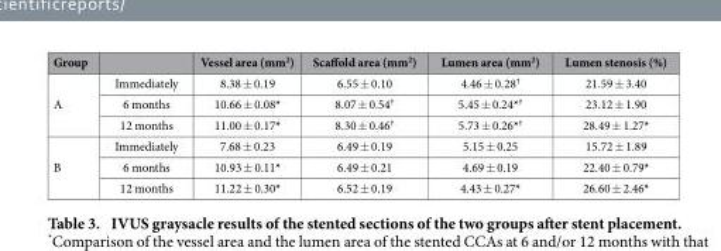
<table><thead><tr><td>Group</td><td></td><td>Vessel area (mm<sup>2</sup>)</td><td>Scaffold area (mm<sup>2</sup>)</td><td>Lumen area (mm<sup>2</sup>)</td><td>Lumen stenosis (%)</td></tr></thead><tbody><tr><td rowspan="3">A</td><td>Immediately</td><td>8.38 ± 0.19</td><td>6.55 ± 0.10</td><td>4.46 ± 0.28†</td><td>21.59 ± 3.40</td></tr><tr><td>6 months</td><td>10.66 ± 0.08*</td><td>8.07 ± 0.54†</td><td>5.45 ± 0.24*<sup>†</sup></td><td>23.12 ± 1.90</td></tr><tr><td>12 months</td><td>11.00 ± 0.17*</td><td>8.30 ± 0.46†</td><td>5.73 ± 0.26*<sup>†</sup></td><td>28.49 ± 1.27*</td></tr><tr><td rowspan="3">B</td><td>Immediately</td><td>7.68 ± 0.23</td><td>6.49 ± 0.19</td><td>5.15 ± 0.25</td><td>15.72 ± 1.89</td></tr><tr><td>6 months</td><td>10.93 ± 0.11*</td><td>6.49 ± 0.21</td><td>4.69 ± 0.19</td><td>22.40 ± 0.79*</td></tr><tr><td>12 months</td><td>11.22 ± 0.30*</td><td>6.52 ± 0.19</td><td>4.43 ± 0.27*</td><td>26.60 ± 2.46*</td></tr></tbody></table>